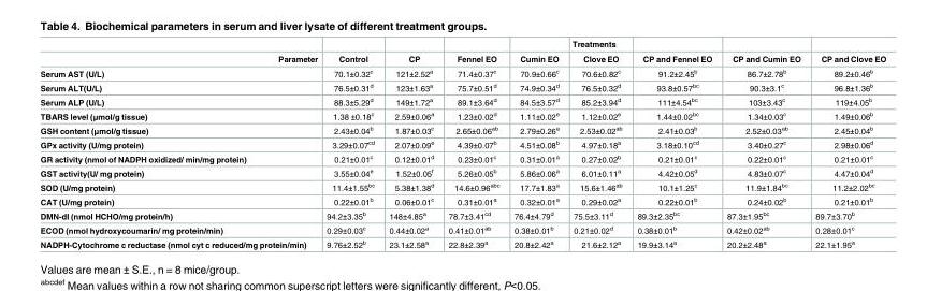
<table><thead><tr><td rowspan="2">Parameter</td><td rowspan="2">Control</td><td rowspan="2">CP</td><td rowspan="2">Fennel EO</td><td rowspan="2">Cumin EO</td><td rowspan="2">Treatments Clove EO</td><td rowspan="2">CP and Fennel EO</td><td rowspan="2">CP and Cumin EO</td><td rowspan="2">CP and Clove EO</td></tr><tr></tr></thead><tbody><tr><td>Serum AST (U/L)</td><td>70.1±0.32c</td><td>121±2.52a</td><td>71.4±0.37c</td><td>70.9±0.66c</td><td>70.6±0.82c</td><td>91.2±2.45b</td><td>86.7±2.78b</td><td>89.2±0.46b</td></tr><tr><td>Serum ALT(U/L)</td><td>76.5±0.31d</td><td>123±1.63a</td><td>75.7±0.51d</td><td>74.9±0.34d</td><td>76.5±0.32d</td><td>93.8±0.57bc</td><td>90.3±3.1c</td><td>96.8±1.36b</td></tr><tr><td>Serum ALP (U/L)</td><td>88.3±5.29d</td><td>149±1.72a</td><td>89.1±3.64d</td><td>84.5±3.57d</td><td>85.2±3.94d</td><td>111±4.54bc</td><td>103±3.43c</td><td>119±4.05b</td></tr><tr><td>TBARS level (μmol/g tissue)</td><td>1.38 ±0.18c</td><td>2.59±0.06a</td><td>1.23±0.02d</td><td>1.11±0.02e</td><td>1.12±0.02e</td><td>1.44±0.02bc</td><td>1.34±0.03c</td><td>1.49±0.06b</td></tr><tr><td>GSH content (μmol/g tissue)</td><td>2.43±0.04b</td><td>1.87±0.03c</td><td>2.65±0.06ab</td><td>2.79±0.26a</td><td>2.53±0.02ab</td><td>2.41±0.03b</td><td>2.52±0.03ab</td><td>2.45±0.04b</td></tr><tr><td>GPx activity (U/mg protein)</td><td>3.29±0.07cd</td><td>2.07±0.09e</td><td>4.39±0.07b</td><td>4.51±0.08b</td><td>4.97±0.18a</td><td>3.18±0.10cd</td><td>3.40±0.27c</td><td>2.98±0.06d</td></tr><tr><td>GR activity (nmol of NADPH oxidized/ min/mg protein)</td><td>0.21±0.01c</td><td>0.12±0.01d</td><td>0.23±0.01c</td><td>0.31±0.01a</td><td>0.27±0.02b</td><td>0.21±0.01c</td><td>0.22±0.01c</td><td>0.21±0.01c</td></tr><tr><td>GST activity(U/ mg protein)</td><td>3.55±0.04e</td><td>1.52±0.05f</td><td>5.26±0.05b</td><td>5.86±0.06a</td><td>6.01±0.11a</td><td>4.42±0.05d</td><td>4.83±0.07c</td><td>4.47±0.04d</td></tr><tr><td>SOD (U/mg protein)</td><td>11.4±1.55bc</td><td>5.38±1.38d</td><td>14.6±0.96abc</td><td>17.7±1.83a</td><td>15.6±1.46ab</td><td>10.1±1.25c</td><td>11.9±1.84bc</td><td>11.2±2.02bc</td></tr><tr><td>CAT (U/mg protein)</td><td>0.22±0.01b</td><td>0.06±0.01c</td><td>0.31±0.01a</td><td>0.32±0.01a</td><td>0.29±0.02a</td><td>0.22±0.01b</td><td>0.24±0.02b</td><td>0.21±0.01b</td></tr><tr><td>DMN-dI (nmol HCHO/mg protein/h)</td><td>94.2±3.35b</td><td>148±4.85a</td><td>78.7±3.41cd</td><td>76.4±4.79d</td><td>75.5±3.11d</td><td>89.3±2.35bc</td><td>87.3±1.95bc</td><td>89.7±3.70b</td></tr><tr><td>ECOD (nmol hydroxycoumarin/ mg protein/min)</td><td>0.29±0.03c</td><td>0.44±0.02a</td><td>0.41±0.01ab</td><td>0.38±0.01b</td><td>0.21±0.02d</td><td>0.38±0.01b</td><td>0.42±0.02ab</td><td>0.28±0.01c</td></tr><tr><td>NADPH-Cytochrome c reductase (nmol cyt c reduced/mg protein/min)</td><td>9.76±2.52b</td><td>23.1±2.58a</td><td>22.8±2.39a</td><td>20.8±2.42a</td><td>21.6±2.12a</td><td>19.9±3.14a</td><td>20.2±2.48a</td><td>22.1±1.95a</td></tr></tbody></table>